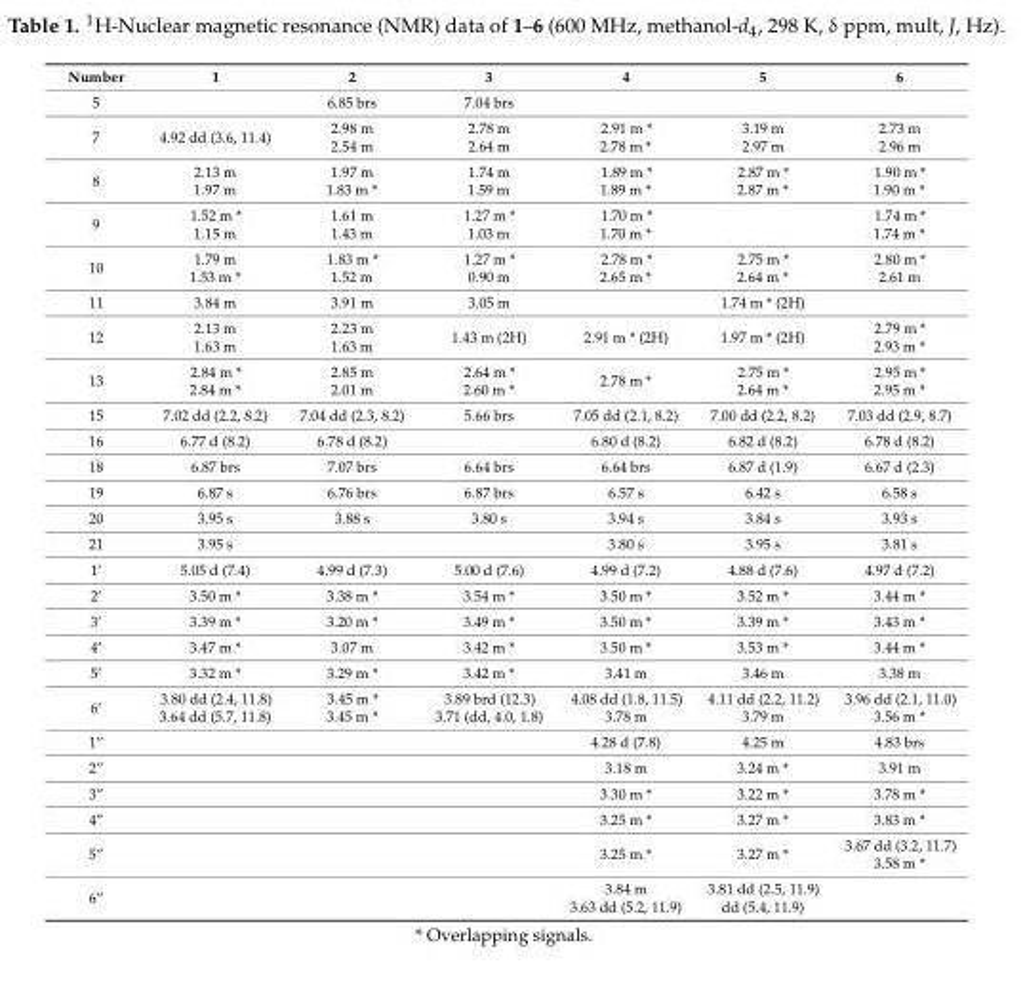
<table><thead><tr><td>Number</td><td>1</td><td>2</td><td>3</td><td>4</td><td>5</td><td>6</td></tr></thead><tbody><tr><td>5</td><td></td><td>6.85 brs</td><td>7.04 brs</td><td></td><td></td><td></td></tr><tr><td>7</td><td>4.92 dd (3.6, 11.4)</td><td>2.98 m 2.54 m</td><td>2.78 m 2.64 m</td><td>2.91 m * 2.78 m *</td><td>3.19 m 2.97 m</td><td>2.73 m 2.96 m</td></tr><tr><td>8</td><td>2.13 m 1.97 m</td><td>1.97 m 1.83 m *</td><td>1.74 m 1.59 m</td><td>1.89 m * 1.89 m *</td><td>2.87 m * 2.87 m *</td><td>1.90 m * 1.90 m *</td></tr><tr><td>9</td><td>1.52 m * 1.15 m</td><td>1.61 m 1.43 m</td><td>1.27 m * 1.03 m</td><td>1.70 m * 1.70 m *</td><td></td><td>1.74 m * 1.74 m *</td></tr><tr><td>10</td><td>1.79 m 1.53 m *</td><td>1.83 m * 1.52 m</td><td>1.27 m * 0.90 m</td><td>2.78 m * 2.65 m *</td><td>2.75 m * 2.64 m *</td><td>2.80 m * 2.61 m</td></tr><tr><td>11</td><td>3.84 m</td><td>3.91 m</td><td>3.05 m</td><td></td><td>1.74 m * (2H)</td><td></td></tr><tr><td>12</td><td>2.13 m 1.63 m</td><td>2.23 m 1.63 m</td><td>1.43 m (2H)</td><td>2.91 m * (2H)</td><td>1.97 m * (2H)</td><td>2.79 m * 2.93 m *</td></tr><tr><td>13</td><td>2.84 m * 2.84 m *</td><td>2.85 m 2.01 m</td><td>2.64 m * 2.60 m *</td><td>2.78 m *</td><td>2.75 m * 2.64 m *</td><td>2.95 m * 2.95 m *</td></tr><tr><td>15</td><td>7.02 dd (2.2, 8.2)</td><td>7.04 dd (2.3, 8.2)</td><td>5.66 brs</td><td>7.05 dd (2.1, 8.2)</td><td>7.00 dd (2.2, 8.2)</td><td>7.03 dd (2.9, 8.7)</td></tr><tr><td>16</td><td>6.77 d (8.2)</td><td>6.78 d (8.2)</td><td></td><td>6.80 d (8.2)</td><td>6.82 d (8.2)</td><td>6.78 d (8.2)</td></tr><tr><td>18</td><td>6.87 brs</td><td>7.07 brs</td><td>6.64 brs</td><td>6.64 brs</td><td>6.87 d (1.9)</td><td>6.67 d (2.3)</td></tr><tr><td>19</td><td>6.87 s</td><td>6.76 brs</td><td>6.87 brs</td><td>6.57 s</td><td>6.42 s</td><td>6.58 s</td></tr><tr><td>20</td><td>3.95 s</td><td>3.88 s</td><td>3.80 s</td><td>3.94 s</td><td>3.84 s</td><td>3.93 s</td></tr><tr><td>21</td><td>3.95 s</td><td></td><td></td><td>3.80 s</td><td>3.95 s</td><td>3.81 s</td></tr><tr><td>1’</td><td>5.05 d (7.4)</td><td>4.99 d (7.3)</td><td>5.00 d (7.6)</td><td>4.99 d (7.2)</td><td>4.88 d (7.6)</td><td>4.97 d (7.2)</td></tr><tr><td>2’</td><td>3.50 m *</td><td>3.38 m *</td><td>3.54 m *</td><td>3.50 m *</td><td>3.52 m *</td><td>3.44 m *</td></tr><tr><td>3’</td><td>3.39 m *</td><td>3.20 m *</td><td>3.49 m *</td><td>3.50 m *</td><td>3.39 m *</td><td>3.43 m *</td></tr><tr><td>4’</td><td>3.47 m *</td><td>3.07 m</td><td>3.42 m *</td><td>3.50 m *</td><td>3.53 m *</td><td>3.44 m *</td></tr><tr><td>5’</td><td>3.32 m *</td><td>3.29 m *</td><td>3.42 m *</td><td>3.41 m</td><td>3.46 m</td><td>3.38 m</td></tr><tr><td>6’</td><td>3.80 dd (2.4, 11.8) 3.64 dd (5.7, 11.8)</td><td>3.45 m * 3.45 m *</td><td>3.89 brd (12.3) 3.71 (dd, 4.0, 1.8)</td><td>4.08 dd (1.8, 11.5) 3.78 m</td><td>4.11 dd (2.2, 11.2) 3.79 m</td><td>3.96 dd (2.1, 11.0) 3.56 m *</td></tr><tr><td>1”</td><td></td><td></td><td></td><td>4.28 d (7.8)</td><td>4.25 m</td><td>4.83 brs</td></tr><tr><td>2”</td><td></td><td></td><td></td><td>3.18 m</td><td>3.24 m *</td><td>3.91 m</td></tr><tr><td>3”</td><td></td><td></td><td></td><td>3.30 m *</td><td>3.22 m *</td><td>3.78 m *</td></tr><tr><td>4”</td><td></td><td></td><td></td><td>3.25 m *</td><td>3.27 m *</td><td>3.83 m *</td></tr><tr><td>5”</td><td></td><td></td><td></td><td>3.25 m *</td><td>3.27 m *</td><td>3.67 dd (3.2, 11.7) 3.58 m *</td></tr><tr><td>6”</td><td></td><td></td><td></td><td>3.84 m 3.63 dd (5.2, 11.9)</td><td>3.81 dd (2.5, 11.9) dd (5.4, 11.9)</td><td></td></tr></tbody></table>